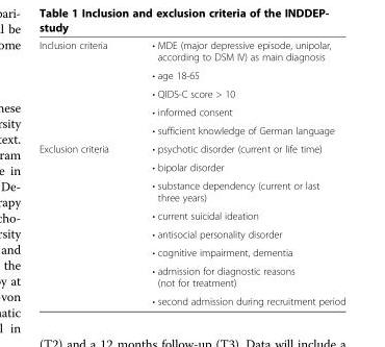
<table><tbody><tr><td rowspan="5">Inclusion criteria</td><td>• MDE (major depressive episode, unipolar, according to DSM IV) as main diagnosis</td></tr><tr><td>• age 18-65</td></tr><tr><td>• QIDS-C score &gt; 10</td></tr><tr><td>• informed consent</td></tr><tr><td>• sufficient knowledge of German language</td></tr><tr><td rowspan="8">Exclusion criteria</td><td>• psychotic disorder (current or life time)</td></tr><tr><td>• bipolar disorder</td></tr><tr><td>• substance dependency (current or last three years)</td></tr><tr><td>• current suicidal ideation</td></tr><tr><td>• antisocial personality disorder</td></tr><tr><td>• cognitive impairment, dementia</td></tr><tr><td>• admission for diagnostic reasons (not for treatment)</td></tr><tr><td>• second admission during recruitment period</td></tr></tbody></table>